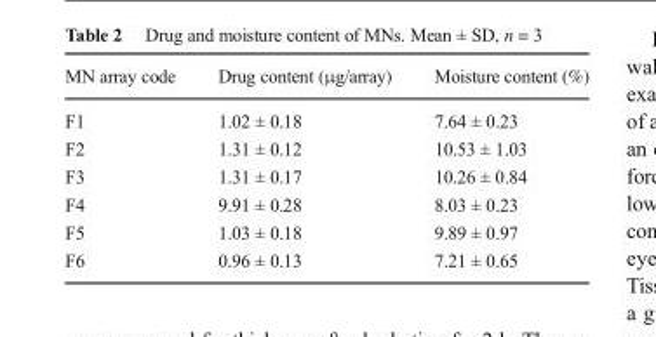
<table><thead><tr><td>MN array code</td><td>Drug content (μg/array)</td><td>Moisture content (%)</td></tr></thead><tbody><tr><td>F1</td><td>1.02 ± 0.18</td><td>7.64 ± 0.23</td></tr><tr><td>F2</td><td>1.31 ± 0.12</td><td>10.53 ± 1.03</td></tr><tr><td>F3</td><td>1.31 ± 0.17</td><td>10.26 ± 0.84</td></tr><tr><td>F4</td><td>9.91 ± 0.28</td><td>8.03 ± 0.23</td></tr><tr><td>F5</td><td>1.03 ± 0.18</td><td>9.89 ± 0.97</td></tr><tr><td>F6</td><td>0.96 ± 0.13</td><td>7.21 ± 0.65</td></tr></tbody></table>